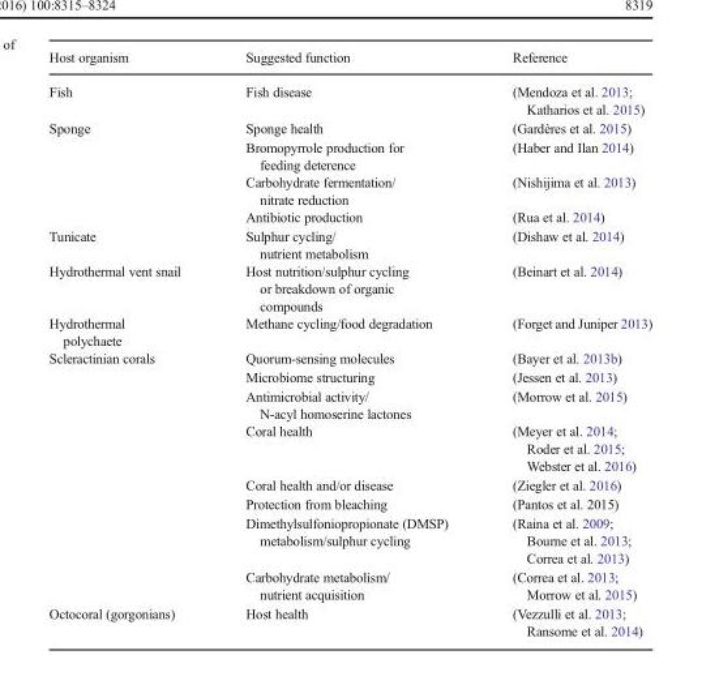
<table><thead><tr><td>Host organism</td><td>Suggested function</td><td>Reference</td></tr></thead><tbody><tr><td>Fish</td><td>Fish disease</td><td>(Mendoza et al. 2013; Katharios et al. 2015)</td></tr><tr><td rowspan="4">Sponge</td><td>Sponge health</td><td>(Gardères et al. 2015)</td></tr><tr><td>Bromopyrrole production for feeding deterence</td><td>(Haber and Ilan 2014)</td></tr><tr><td>Carbohydrate fermentation/ nitrate reduction</td><td>(Nishijima et al. 2013)</td></tr><tr><td>Antibiotic production</td><td>(Rua et al. 2014)</td></tr><tr><td>Tunicate</td><td>Sulphur cycling/ nutrient metabolism</td><td>(Dishaw et al. 2014)</td></tr><tr><td>Hydrothermal vent snail</td><td>Host nutrition/sulphur cycling or breakdown of organic compounds</td><td>(Beinart et al. 2014)</td></tr><tr><td>Hydrothermal polychaete</td><td>Methane cycling/food degradation</td><td>(Forget and Juniper 2013)</td></tr><tr><td rowspan="8">Scleractinian corals</td><td>Quorum-sensing molecules</td><td>(Bayer et al. 2013b)</td></tr><tr><td>Microbiome structuring</td><td>(Jessen et al. 2013)</td></tr><tr><td>Antimicrobial activity/ N-acyl homoserine lactones</td><td>(Morrow et al. 2015)</td></tr><tr><td>Coral health</td><td>(Meyer et al. 2014; Roder et al. 2015; Webster et al. 2016)</td></tr><tr><td>Coral health and/or disease</td><td>(Ziegler et al. 2016)</td></tr><tr><td>Protection from bleaching</td><td>(Pantos et al. 2015)</td></tr><tr><td>Dimethylsulfoniopropionate (DMSP) metabolism/sulphur cycling</td><td>(Raina et al. 2009; Bourne et al. 2013; Correa et al. 2013)</td></tr><tr><td>Carbohydrate metabolism/ nutrient acquisition</td><td>(Correa et al. 2013; Morrow et al. 2015)</td></tr><tr><td>Octocoral (gorgonians)</td><td>Host health</td><td>(Vezzulli et al. 2013; Ransome et al. 2014)</td></tr></tbody></table>